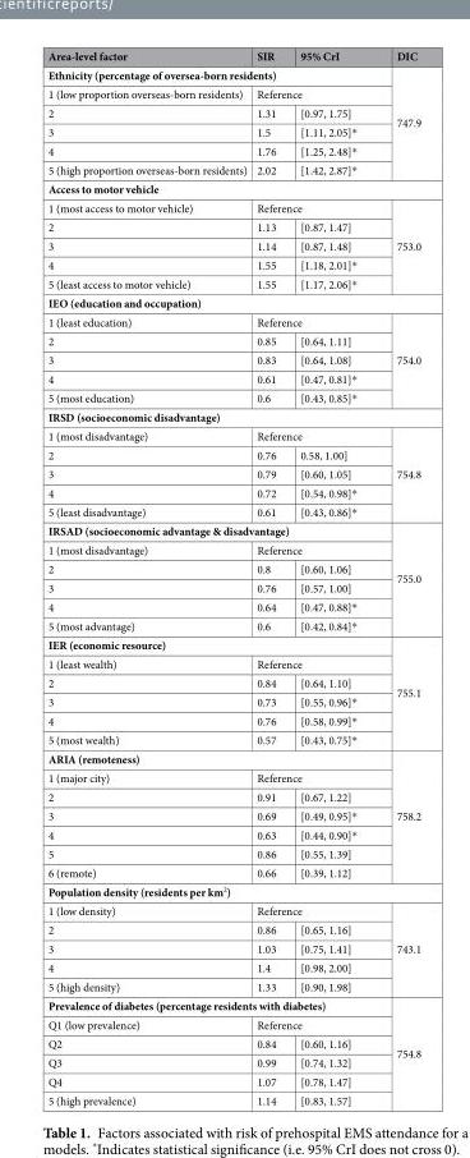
<table><thead><tr><td>Area-level factor</td><td>SIR</td><td>95% CrI</td><td>DIC</td></tr></thead><tbody><tr><td colspan="3">Ethnicity (percentage of oversea-born residents)</td><td rowspan="6">747.9</td></tr><tr><td>1 (low proportion overseas-born residents)</td><td colspan="2">Reference</td></tr><tr><td>2</td><td>1.31</td><td>[0.97, 1.75]</td></tr><tr><td>3</td><td>1.5</td><td>[1.11, 2.05]*</td></tr><tr><td>4</td><td>1.76</td><td>[1.25, 2.48]*</td></tr><tr><td>5 (high proportion overseas-born residents)</td><td>2.02</td><td>[1.42, 2.87]*</td></tr><tr><td colspan="4">Access to motor vehicle</td></tr><tr><td>1 (most access to motor vehicle)</td><td colspan="2">Reference</td><td rowspan="5">753.0</td></tr><tr><td>2</td><td>1.13</td><td>[0.87, 1.47]</td></tr><tr><td>3</td><td>1.14</td><td>[0.87, 1.48]</td></tr><tr><td>4</td><td>1.55</td><td>[1.18, 2.01]*</td></tr><tr><td>5 (least access to motor vehicle)</td><td>1.55</td><td>[1.17, 2.06]*</td></tr><tr><td colspan="4">IEO (education and occupation)</td></tr><tr><td>1 (least education)</td><td colspan="2">Reference</td><td rowspan="5">754.0</td></tr><tr><td>2</td><td>0.85</td><td>[0.64, 1.11]</td></tr><tr><td>3</td><td>0.83</td><td>[0.64, 1.08]</td></tr><tr><td>4</td><td>0.61</td><td>[0.47, 0.81]*</td></tr><tr><td>5 (most education)</td><td>0.6</td><td>[0.43, 0.85]*</td></tr><tr><td colspan="4">IRSD (socioeconomic disadvantage)</td></tr><tr><td>1 (most disadvantage)</td><td colspan="2">Reference</td><td rowspan="5">754.8</td></tr><tr><td>2</td><td>0.76</td><td>0.58, 1.00]</td></tr><tr><td>3</td><td>0.79</td><td>[0.60, 1.05]</td></tr><tr><td>4</td><td>0.72</td><td>[0.54, 0.98]*</td></tr><tr><td>5 (least disadvantage)</td><td>0.61</td><td>[0.43, 0.86]*</td></tr><tr><td colspan="3">IRSAD (socioeconomic advantage &amp; disadvantage)</td><td rowspan="6">755.0</td></tr><tr><td>1 (most disadvantage)</td><td colspan="2">Reference</td></tr><tr><td>2</td><td>0.8</td><td>[0.60, 1.06]</td></tr><tr><td>3</td><td>0.76</td><td>[0.57, 1.00]</td></tr><tr><td>4</td><td>0.64</td><td>[0.47, 0.88]*</td></tr><tr><td>5 (most advantage)</td><td>0.6</td><td>[0.42, 0.84]*</td></tr><tr><td colspan="3">IER (economic resource)</td><td rowspan="6">755.1</td></tr><tr><td>1 (least wealth)</td><td colspan="2">Reference</td></tr><tr><td>2</td><td>0.84</td><td>[0.64, 1.10]</td></tr><tr><td>3</td><td>0.73</td><td>[0.55, 0.96]*</td></tr><tr><td>4</td><td>0.76</td><td>[0.58, 0.99]*</td></tr><tr><td>5 (most wealth)</td><td>0.57</td><td>[0.43, 0.75]*</td></tr><tr><td colspan="3">ARIA (remoteness)</td><td rowspan="7">758.2</td></tr><tr><td>1 (major city)</td><td colspan="2">Reference</td></tr><tr><td>2</td><td>0.91</td><td>[0.67, 1.22]</td></tr><tr><td>3</td><td>0.69</td><td>[0.49, 0.95]*</td></tr><tr><td>4</td><td>0.63</td><td>[0.44, 0.90]*</td></tr><tr><td>5</td><td>0.86</td><td>[0.55, 1.39]</td></tr><tr><td>6 (remote)</td><td>0.66</td><td>[0.39, 1.12]</td></tr><tr><td colspan="4">Population density (residents per km<sup>2</sup>)</td></tr><tr><td>1 (low density)</td><td colspan="2">Reference</td><td rowspan="5">743.1</td></tr><tr><td>2</td><td>0.86</td><td>[0.65, 1.16]</td></tr><tr><td>3</td><td>1.03</td><td>[0.75, 1.41]</td></tr><tr><td>4</td><td>1.4</td><td>[0.98, 2.00]</td></tr><tr><td>5 (high density)</td><td>1.33</td><td>[0.90, 1.98]</td></tr><tr><td colspan="3">Prevalence of diabetes (percentage residents with diabetes)</td><td rowspan="6">754.8</td></tr><tr><td>Q1 (low prevalence)</td><td colspan="2">Reference</td></tr><tr><td>Q2</td><td>0.84</td><td>[0.60, 1.16]</td></tr><tr><td>Q3</td><td>0.99</td><td>[0.74, 1.32]</td></tr><tr><td>Q4</td><td>1.07</td><td>[0.78, 1.47]</td></tr><tr><td>5 (high prevalence)</td><td>1.14</td><td>[0.83, 1.57]</td></tr></tbody></table>